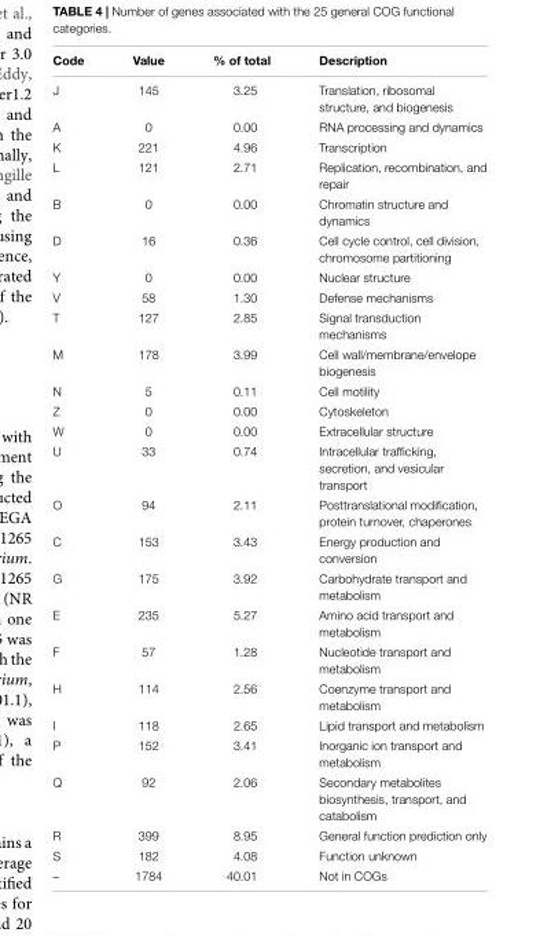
<table><thead><tr><td>Code</td><td>Value</td><td>% of total</td><td>Description</td></tr></thead><tbody><tr><td>J</td><td>145</td><td>3.25</td><td>Translation, ribosomal structure, and biogenesis</td></tr><tr><td>A</td><td>0</td><td>0.00</td><td>RNA processing and dynamics</td></tr><tr><td>K</td><td>221</td><td>4.96</td><td>Transcription</td></tr><tr><td>L</td><td>121</td><td>2.71</td><td>Replication, recombination, and repair</td></tr><tr><td>B</td><td>0</td><td>0.00</td><td>Chromatin structure and dynamics</td></tr><tr><td>D</td><td>16</td><td>0.36</td><td>Cell cycle control, cell division, chromosome partitioning</td></tr><tr><td>Y</td><td>0</td><td>0.00</td><td>Nuclear structure</td></tr><tr><td>V</td><td>58</td><td>1.30</td><td>Defense mechanisms</td></tr><tr><td>T</td><td>127</td><td>2.85</td><td>Signal transduction mechanisms</td></tr><tr><td>M</td><td>178</td><td>3.99</td><td>Cell wall/membrane/envelope biogenesis</td></tr><tr><td>N</td><td>5</td><td>0.11</td><td>Cell motility</td></tr><tr><td>Z</td><td>0</td><td>0.00</td><td>Cytoskeleton</td></tr><tr><td>W</td><td>0</td><td>0.00</td><td>Extracellular structure</td></tr><tr><td>U</td><td>33</td><td>0.74</td><td>Intracellular trafficking, secretion, and vesicular transport</td></tr><tr><td>O</td><td>94</td><td>2.11</td><td>Posttranslational modification, protein turnover, chaperones</td></tr><tr><td>C</td><td>153</td><td>3.43</td><td>Energy production and conversion</td></tr><tr><td>G</td><td>175</td><td>3.92</td><td>Carbohydrate transport and metabolism</td></tr><tr><td>E</td><td>235</td><td>5.27</td><td>Amino acid transport and metabolism</td></tr><tr><td>F</td><td>57</td><td>1.28</td><td>Nucleotide transport and metabolism</td></tr><tr><td>H</td><td>114</td><td>2.56</td><td>Coenzyme transport and metabolism</td></tr><tr><td>I</td><td>118</td><td>2.65</td><td>Lipid transport and metabolism</td></tr><tr><td>P</td><td>152</td><td>3.41</td><td>Inorganic ion transport and metabolism</td></tr><tr><td>Q</td><td>92</td><td>2.06</td><td>Secondary metabolites biosynthesis, transport, and catabolism</td></tr><tr><td>R</td><td>399</td><td>8.95</td><td>General function prediction only</td></tr><tr><td>S</td><td>182</td><td>4.08</td><td>Function unknown</td></tr><tr><td>–</td><td>1784</td><td>40.01</td><td>Not in COGs</td></tr></tbody></table>